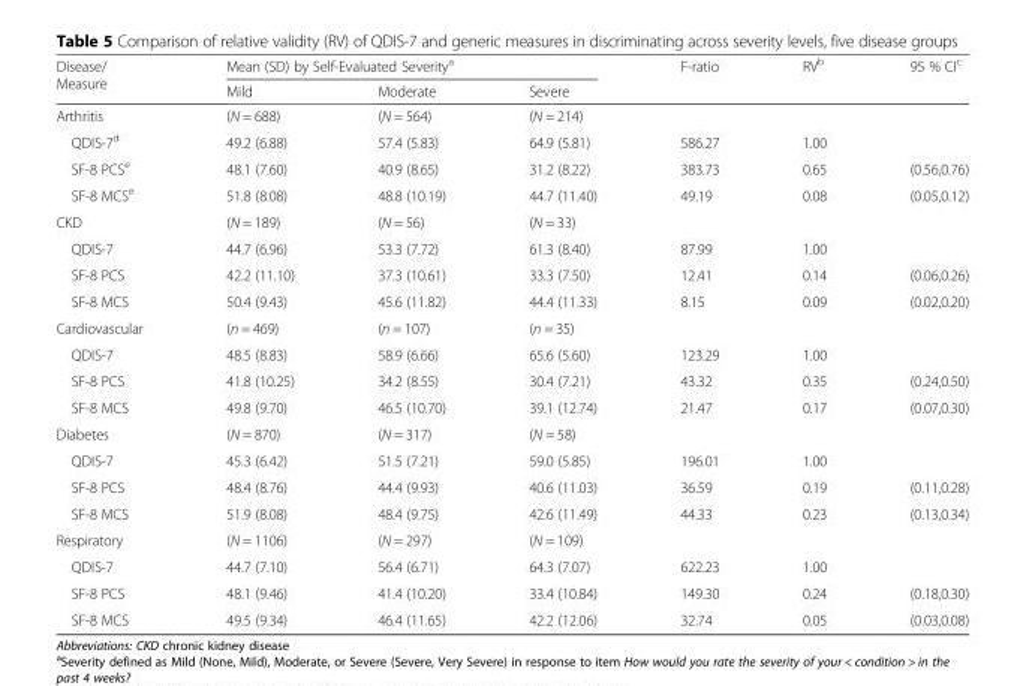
<table><thead><tr><td rowspan="2">Disease/ Measure</td><td colspan="3">Mean (SD) by Self-Evaluated Severity<sup>a</sup></td><td rowspan="2">F-ratio</td><td rowspan="2">RV<sup>b</sup></td><td rowspan="2">95 % CI<sup>c</sup></td></tr><tr><td>Mild</td><td>Moderate</td><td>Severe</td></tr></thead><tbody><tr><td>Arthritis</td><td>(N = 688)</td><td>(N = 564)</td><td>(N = 214)</td><td></td><td></td><td></td></tr><tr><td>QDIS-7<sup>d</sup></td><td>49.2 (6.88)</td><td>57.4 (5.83)</td><td>64.9 (5.81)</td><td>586.27</td><td>1.00</td><td></td></tr><tr><td>SF-8 PCS<sup>e</sup></td><td>48.1 (7.60)</td><td>40.9 (8.65)</td><td>31.2 (8.22)</td><td>383.73</td><td>0.65</td><td>(0.56,0.76)</td></tr><tr><td>SF-8 MCS<sup>e</sup></td><td>51.8 (8.08)</td><td>48.8 (10.19)</td><td>44.7 (11.40)</td><td>49.19</td><td>0.08</td><td>(0.05,0.12)</td></tr><tr><td>CKD</td><td>(N = 189)</td><td>(N = 56)</td><td>(N = 33)</td><td></td><td></td><td></td></tr><tr><td>QDIS-7</td><td>44.7 (6.96)</td><td>53.3 (7.72)</td><td>61.3 (8.40)</td><td>87.99</td><td>1.00</td><td></td></tr><tr><td>SF-8 PCS</td><td>42.2 (11.10)</td><td>37.3 (10.61)</td><td>33.3 (7.50)</td><td>12.41</td><td>0.14</td><td>(0.06,0.26)</td></tr><tr><td>SF-8 MCS</td><td>50.4 (9.43)</td><td>45.6 (11.82)</td><td>44.4 (11.33)</td><td>8.15</td><td>0.09</td><td>(0.02,0.20)</td></tr><tr><td>Cardiovascular</td><td>(n = 469)</td><td>(n = 107)</td><td>(n = 35)</td><td></td><td></td><td></td></tr><tr><td>QDIS-7</td><td>48.5 (8.83)</td><td>58.9 (6.66)</td><td>65.6 (5.60)</td><td>123.29</td><td>1.00</td><td></td></tr><tr><td>SF-8 PCS</td><td>41.8 (10.25)</td><td>34.2 (8.55)</td><td>30.4 (7.21)</td><td>43.32</td><td>0.35</td><td>(0.24,0.50)</td></tr><tr><td>SF-8 MCS</td><td>49.8 (9.70)</td><td>46.5 (10.70)</td><td>39.1 (12.74)</td><td>21.47</td><td>0.17</td><td>(0.07,0.30)</td></tr><tr><td>Diabetes</td><td>(N = 870)</td><td>(N = 317)</td><td>(N = 58)</td><td></td><td></td><td></td></tr><tr><td>QDIS-7</td><td>45.3 (6.42)</td><td>51.5 (7.21)</td><td>59.0 (5.85)</td><td>196.01</td><td>1.00</td><td></td></tr><tr><td>SF-8 PCS</td><td>48.4 (8.76)</td><td>44.4 (9.93)</td><td>40.6 (11.03)</td><td>36.59</td><td>0.19</td><td>(0.11,0.28)</td></tr><tr><td>SF-8 MCS</td><td>51.9 (8.08)</td><td>48.4 (9.75)</td><td>42.6 (11.49)</td><td>44.33</td><td>0.23</td><td>(0.13,0.34)</td></tr><tr><td>Respiratory</td><td>(N = 1106)</td><td>(N = 297)</td><td>(N = 109)</td><td></td><td></td><td></td></tr><tr><td>QDIS-7</td><td>44.7 (7.10)</td><td>56.4 (6.71)</td><td>64.3 (7.07)</td><td>622.23</td><td>1.00</td><td></td></tr><tr><td>SF-8 PCS</td><td>48.1 (9.46)</td><td>41.4 (10.20)</td><td>33.4 (10.84)</td><td>149.30</td><td>0.24</td><td>(0.18,0.30)</td></tr><tr><td>SF-8 MCS</td><td>49.5 (9.34)</td><td>46.4 (11.65)</td><td>42.2 (12.06)</td><td>32.74</td><td>0.05</td><td>(0.03,0.08)</td></tr></tbody></table>